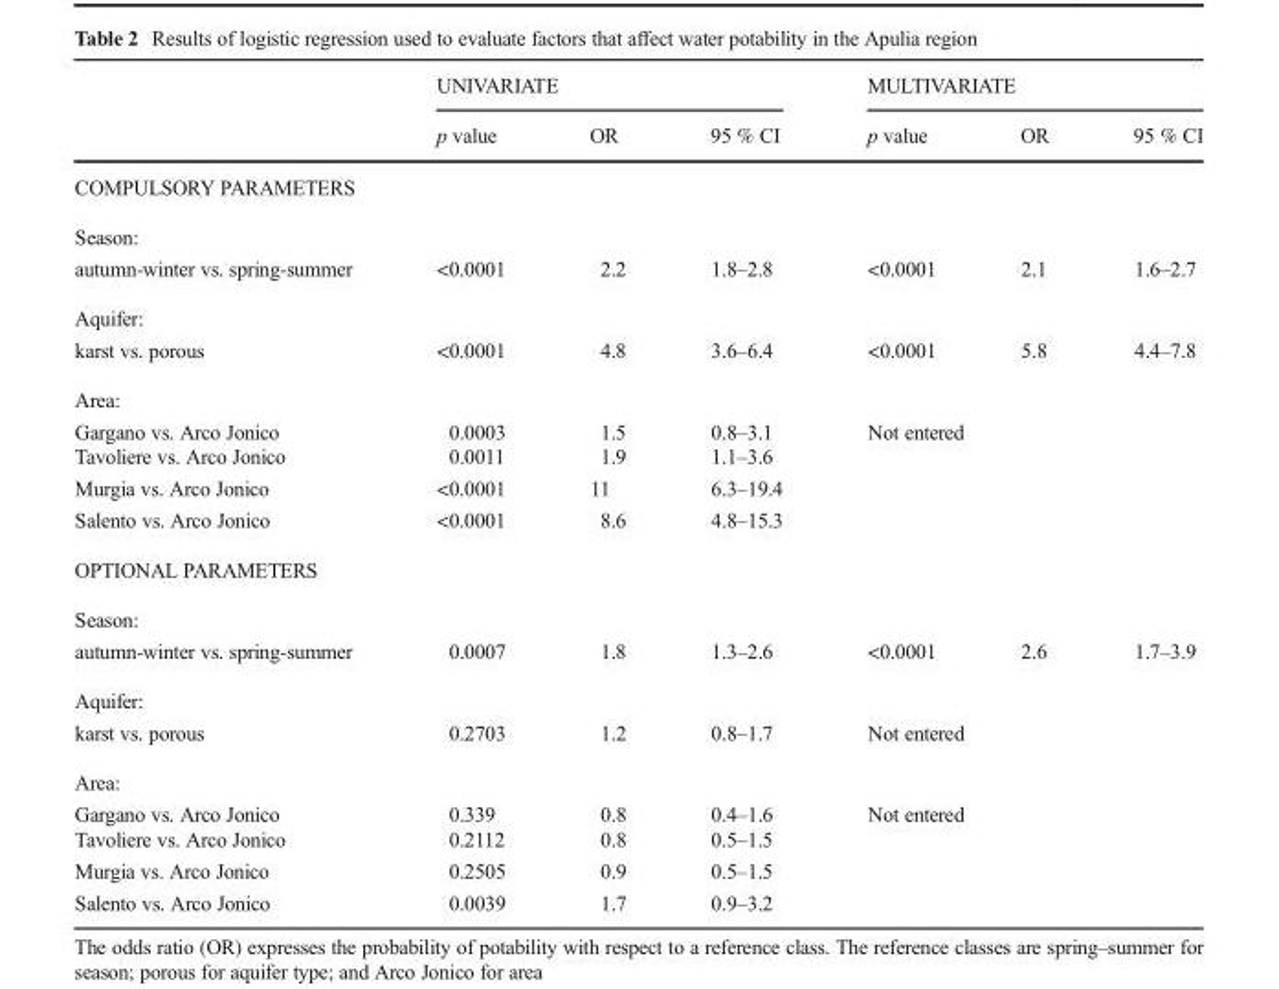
<table><thead><tr><td rowspan="2"></td><td colspan="3">UNIVARIATE</td><td colspan="3">MULTIVARIATE</td></tr><tr><td>p value</td><td>OR</td><td>95 % CI</td><td>p value</td><td>OR</td><td>95 % CI</td></tr></thead><tbody><tr><td colspan="7">COMPULSORY PARAMETERS</td></tr><tr><td colspan="7">Season:</td></tr><tr><td>autumn-winter vs. spring-summer</td><td>&lt;0.0001</td><td>2.2</td><td>1.8–2.8</td><td>&lt;0.0001</td><td>2.1</td><td>1.6–2.7</td></tr><tr><td colspan="7">Aquifer:</td></tr><tr><td>karst vs. porous</td><td>&lt;0.0001</td><td>4.8</td><td>3.6–6.4</td><td>&lt;0.0001</td><td>5.8</td><td>4.4–7.8</td></tr><tr><td colspan="7">Area:</td></tr><tr><td>Gargano vs. Arco Jonico</td><td>0.0003</td><td>1.5</td><td>0.8–3.1</td><td rowspan="4" colspan="3">Not entered</td></tr><tr><td>Tavoliere vs. Arco Jonico</td><td>0.0011</td><td>1.9</td><td>1.1–3.6</td></tr><tr><td>Murgia vs. Arco Jonico</td><td>&lt;0.0001</td><td>11</td><td>6.3–19.4</td></tr><tr><td>Salento vs. Arco Jonico</td><td>&lt;0.0001</td><td>8.6</td><td>4.8–15.3</td></tr><tr><td colspan="7">OPTIONAL PARAMETERS</td></tr><tr><td colspan="7">Season:</td></tr><tr><td>autumn-winter vs. spring-summer</td><td>0.0007</td><td>1.8</td><td>1.3–2.6</td><td>&lt;0.0001</td><td>2.6</td><td>1.7–3.9</td></tr><tr><td colspan="7">Aquifer:</td></tr><tr><td>karst vs. porous</td><td>0.2703</td><td>1.2</td><td>0.8–1.7</td><td colspan="3">Not entered</td></tr><tr><td colspan="7">Area:</td></tr><tr><td>Gargano vs. Arco Jonico</td><td>0.339</td><td>0.8</td><td>0.4–1.6</td><td rowspan="4" colspan="3">Not entered</td></tr><tr><td>Tavoliere vs. Arco Jonico</td><td>0.2112</td><td>0.8</td><td>0.5–1.5</td></tr><tr><td>Murgia vs. Arco Jonico</td><td>0.2505</td><td>0.9</td><td>0.5–1.5</td></tr><tr><td>Salento vs. Arco Jonico</td><td>0.0039</td><td>1.7</td><td>0.9–3.2</td></tr></tbody></table>